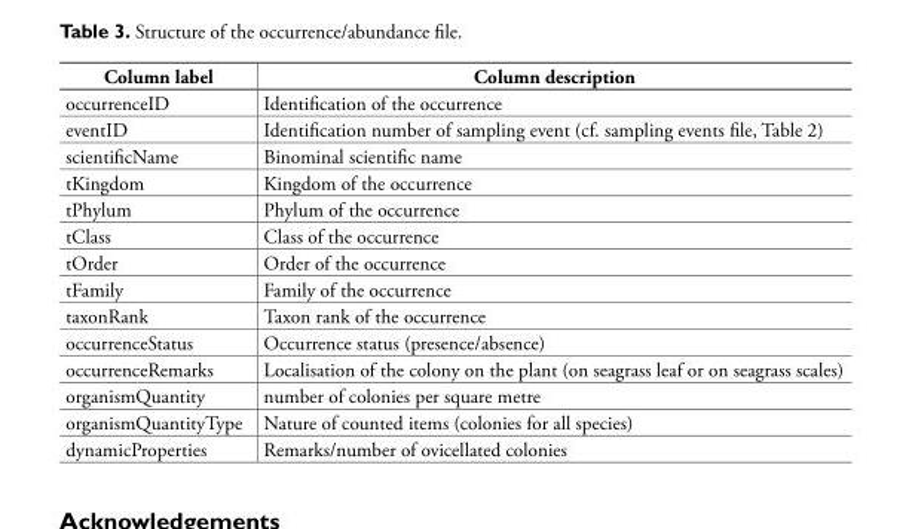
<table><thead><tr><td>Column label</td><td>Column description</td></tr></thead><tbody><tr><td>occurrenceID</td><td>Identification of the occurrence</td></tr><tr><td>eventID</td><td>Identification number of sampling event (cf. sampling events file, Table 2)</td></tr><tr><td>scientificName</td><td>Binominal scientific name</td></tr><tr><td>tKingdom</td><td>Kingdom of the occurrence</td></tr><tr><td>tPhylum</td><td>Phylum of the occurrence</td></tr><tr><td>tClass</td><td>Class of the occurrence</td></tr><tr><td>tOrder</td><td>Order of the occurrence</td></tr><tr><td>tFamily</td><td>Family of the occurrence</td></tr><tr><td>taxonRank</td><td>Taxon rank of the occurrence</td></tr><tr><td>occurrenceStatus</td><td>Occurrence status (presence/absence)</td></tr><tr><td>occurrenceRemarks</td><td>Localisation of the colony on the plant (on seagrass leaf or on seagrass scales)</td></tr><tr><td>organismQuantity</td><td>number of colonies per square metre</td></tr><tr><td>organismQuantityType</td><td>Nature of counted items (colonies for all species)</td></tr><tr><td>dynamicProperties</td><td>Remarks/number of ovicellated colonies</td></tr></tbody></table>